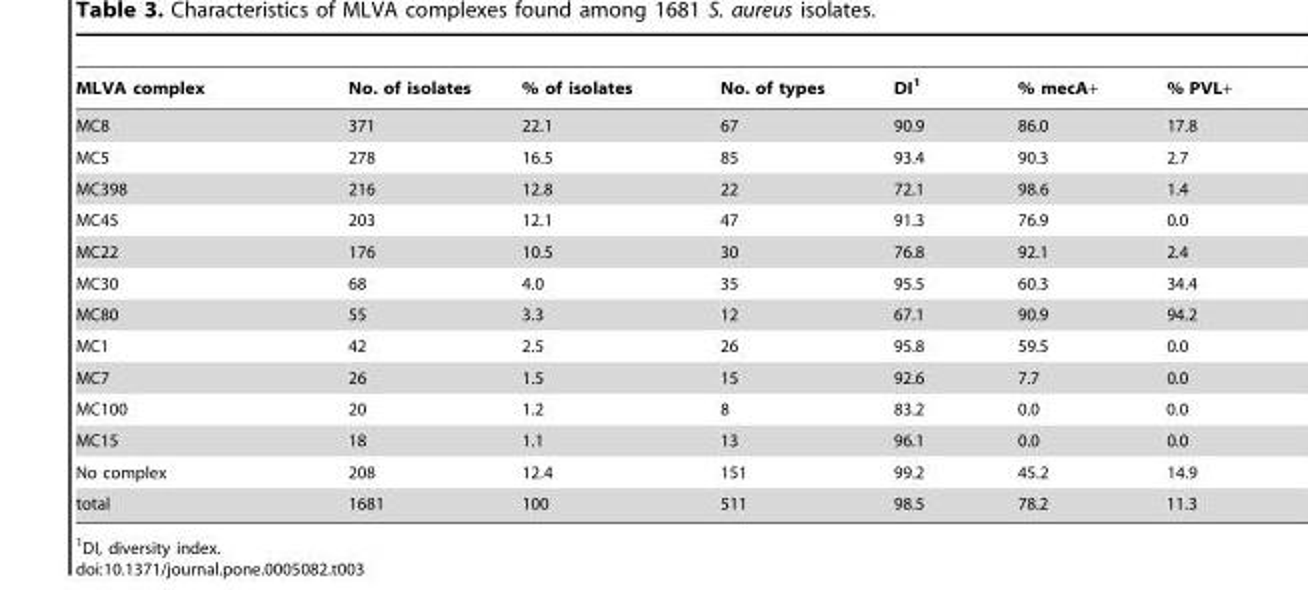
<table><thead><tr><td>MLVA complex</td><td>No. of isolates</td><td>% of isolates</td><td>No. of types</td><td>DI<sup>1</sup></td><td>% mecA+</td><td>% PVL+</td></tr></thead><tbody><tr><td>MC8</td><td>371</td><td>22.1</td><td>67</td><td>90.9</td><td>86.0</td><td>17.8</td></tr><tr><td>MC5</td><td>278</td><td>16.5</td><td>85</td><td>93.4</td><td>90.3</td><td>2.7</td></tr><tr><td>MC398</td><td>216</td><td>12.8</td><td>22</td><td>72.1</td><td>98.6</td><td>1.4</td></tr><tr><td>MC45</td><td>203</td><td>12.1</td><td>47</td><td>91.3</td><td>76.9</td><td>0.0</td></tr><tr><td>MC22</td><td>176</td><td>10.5</td><td>30</td><td>76.8</td><td>92.1</td><td>2.4</td></tr><tr><td>MC30</td><td>68</td><td>4.0</td><td>35</td><td>95.5</td><td>60.3</td><td>34.4</td></tr><tr><td>MC80</td><td>55</td><td>3.3</td><td>12</td><td>67.1</td><td>90.9</td><td>94.2</td></tr><tr><td>MC1</td><td>42</td><td>2.5</td><td>26</td><td>95.8</td><td>59.5</td><td>0.0</td></tr><tr><td>MC7</td><td>26</td><td>1.5</td><td>15</td><td>92.6</td><td>7.7</td><td>0.0</td></tr><tr><td>MC100</td><td>20</td><td>1.2</td><td>8</td><td>83.2</td><td>0.0</td><td>0.0</td></tr><tr><td>MC15</td><td>18</td><td>1.1</td><td>13</td><td>96.1</td><td>0.0</td><td>0.0</td></tr><tr><td>No complex</td><td>208</td><td>12.4</td><td>151</td><td>99.2</td><td>45.2</td><td>14.9</td></tr><tr><td>total</td><td>1681</td><td>100</td><td>511</td><td>98.5</td><td>78.2</td><td>11.3</td></tr></tbody></table>